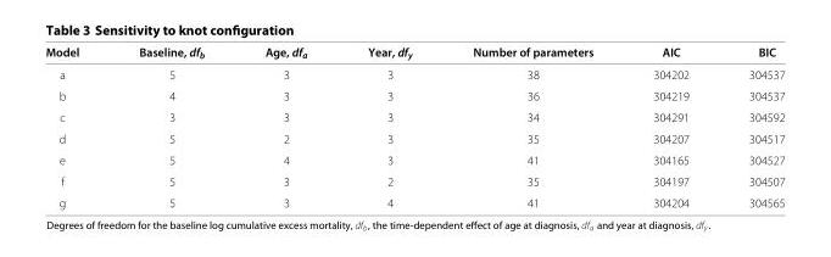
<table><thead><tr><td>Model</td><td>Baseline, df<sub>b</sub></td><td>Age, df<sub>a</sub></td><td>Year, df<sub>y</sub></td><td>Number of parameters</td><td>AIC</td><td>BIC</td></tr></thead><tbody><tr><td>a</td><td>5</td><td>3</td><td>3</td><td>38</td><td>304202</td><td>304537</td></tr><tr><td>b</td><td>4</td><td>3</td><td>3</td><td>36</td><td>304219</td><td>304537</td></tr><tr><td>c</td><td>3</td><td>3</td><td>3</td><td>34</td><td>304291</td><td>304592</td></tr><tr><td>d</td><td>5</td><td>2</td><td>3</td><td>35</td><td>304207</td><td>304517</td></tr><tr><td>e</td><td>5</td><td>4</td><td>3</td><td>41</td><td>304165</td><td>304527</td></tr><tr><td>f</td><td>5</td><td>3</td><td>2</td><td>35</td><td>304197</td><td>304507</td></tr><tr><td>g</td><td>5</td><td>3</td><td>4</td><td>41</td><td>304204</td><td>304565</td></tr></tbody></table>